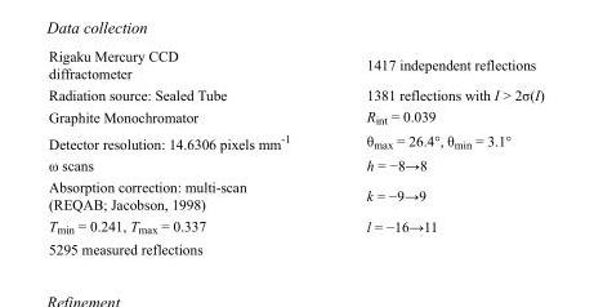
<table><tbody><tr><td>Rigaku Mercury CCD diffractometer</td><td>1417 independent reflections</td></tr><tr><td>Radiation source: Sealed Tube</td><td>1381 reflections with I &gt; 2σ(I)</td></tr><tr><td>Graphite Monochromator</td><td>R<sub>int</sub> = 0.039</td></tr><tr><td>Detector resolution: 14.6306 pixels mm<sup>-1</sup></td><td>θ<sub>max</sub> = 26.4°, θ<sub>min</sub> = 3.1°</td></tr><tr><td>ω scans</td><td>h = −8→8</td></tr><tr><td>Absorption correction: multi-scan (REQAB; Jacobson, 1998)</td><td>k = −9→9</td></tr><tr><td>T<sub>min</sub> = 0.241, T<sub>max</sub> = 0.337</td><td>l = −16→11</td></tr><tr><td>5295 measured reflections</td><td></td></tr></tbody></table>